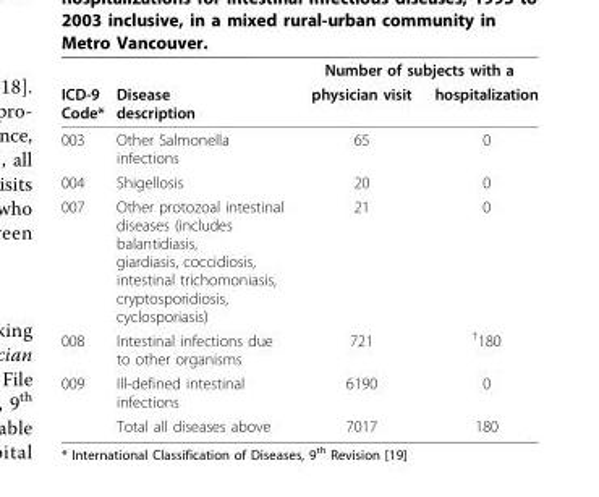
<table><thead><tr><td rowspan="2">ICD-9 Code*</td><td rowspan="2">Disease description</td><td colspan="2">Number of subjects with a</td></tr><tr><td>physician visit</td><td>hospitalization</td></tr></thead><tbody><tr><td>003</td><td>Other Salmonella infections</td><td>65</td><td>0</td></tr><tr><td>004</td><td>Shigellosis</td><td>20</td><td>0</td></tr><tr><td>007</td><td>Other protozoal intestinal diseases (includes balantidiasis, giardiasis, coccidiosis, intestinal trichomoniasis, cryptosporidiosis, cyclosporiasis)</td><td>21</td><td>0</td></tr><tr><td>008</td><td>Intestinal infections due to other organisms</td><td>721</td><td><sup>†</sup>180</td></tr><tr><td rowspan="2">009</td><td>Ill-defined intestinal infections</td><td>6190</td><td>0</td></tr><tr><td>Total all diseases above</td><td>7017</td><td>180</td></tr></tbody></table>